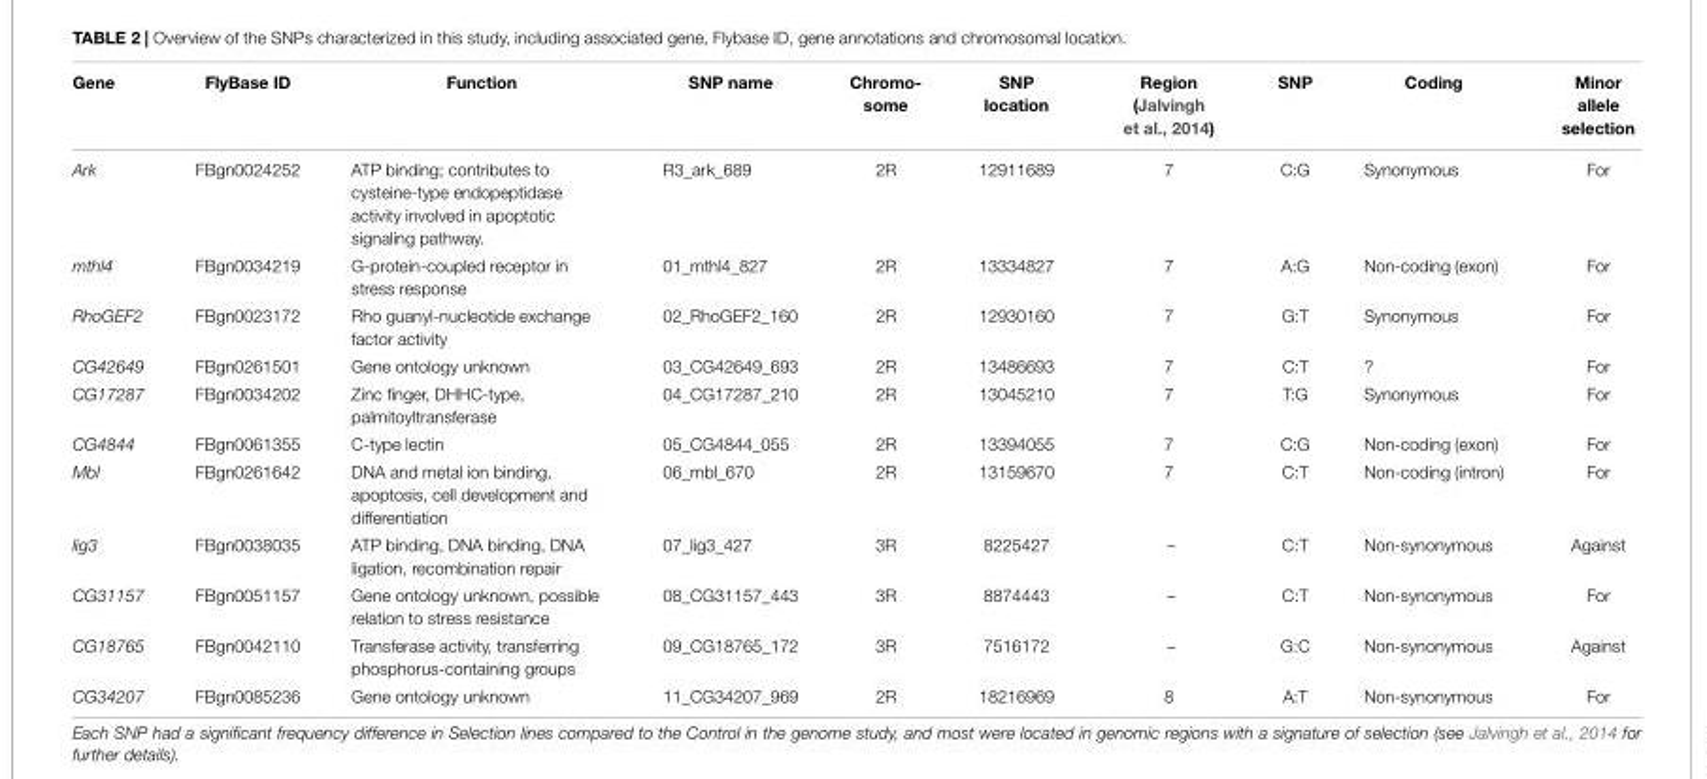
<table><thead><tr><td>Gene</td><td>FlyBase ID</td><td>Function</td><td>SNP name</td><td>Chromo- some</td><td>SNP location</td><td>Region (Jalvingh et al., 2014)</td><td>SNP</td><td>Coding</td><td>Minor allele selection</td></tr></thead><tbody><tr><td>Ark</td><td>FBgn0024252</td><td>ATP binding; contributes to cysteine-type endopeptidase activity involved in apoptotic signaling pathway.</td><td>R3_ark_689</td><td>2R</td><td>12911689</td><td>7</td><td>C:G</td><td>Synonymous</td><td>For</td></tr><tr><td>mthl4</td><td>FBgn0034219</td><td>G-protein-coupled receptor in stress response</td><td>01_mthl4_827</td><td>2R</td><td>13334827</td><td>7</td><td>A:G</td><td>Non-coding (exon)</td><td>For</td></tr><tr><td>RhoGEF2</td><td>FBgn0023172</td><td>Rho guanyl-nucleotide exchange factor activity</td><td>02_RhoGEF2_160</td><td>2R</td><td>12930160</td><td>7</td><td>G:T</td><td>Synonymous</td><td>For</td></tr><tr><td>CG42649</td><td>FBgn0261501</td><td>Gene ontology unknown</td><td>03_CG42649_693</td><td>2R</td><td>13486693</td><td>7</td><td>C:T</td><td>?</td><td>For</td></tr><tr><td>CG17287</td><td>FBgn0034202</td><td>Zinc finger, DHHC-type, palmitoyltransferase</td><td>04_CG17287_210</td><td>2R</td><td>13045210</td><td>7</td><td>T:G</td><td>Synonymous</td><td>For</td></tr><tr><td>CG4844</td><td>FBgn0061355</td><td>C-type lectin</td><td>05_CG4844_055</td><td>2R</td><td>13394055</td><td>7</td><td>C:G</td><td>Non-coding (exon)</td><td>For</td></tr><tr><td>Mbl</td><td>FBgn0261642</td><td>DNA and metal ion binding, apoptosis, cell development and differentiation</td><td>06_mbl_670</td><td>2R</td><td>13159670</td><td>7</td><td>C:T</td><td>Non-coding (intron)</td><td>For</td></tr><tr><td>lig3</td><td>FBgn0038035</td><td>ATP binding, DNA binding, DNA ligation, recombination repair</td><td>07_lig3_427</td><td>3R</td><td>8225427</td><td>–</td><td>C:T</td><td>Non-synonymous</td><td>Against</td></tr><tr><td>CG31157</td><td>FBgn0051157</td><td>Gene ontology unknown, possible relation to stress resistance</td><td>08_CG31157_443</td><td>3R</td><td>8874443</td><td>–</td><td>C:T</td><td>Non-synonymous</td><td>For</td></tr><tr><td>CG18765</td><td>FBgn0042110</td><td>Transferase activity, transferring phosphorus-containing groups</td><td>09_CG18765_172</td><td>3R</td><td>7516172</td><td>–</td><td>G:C</td><td>Non-synonymous</td><td>Against</td></tr><tr><td>CG34207</td><td>FBgn0085236</td><td>Gene ontology unknown</td><td>11_CG34207_969</td><td>2R</td><td>18216969</td><td>8</td><td>A:T</td><td>Non-synonymous</td><td>For</td></tr></tbody></table>